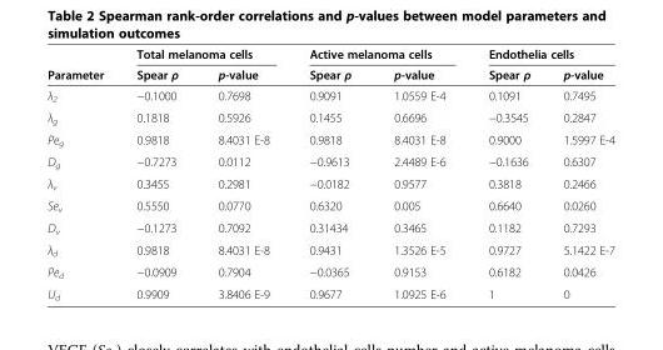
<table><thead><tr><td rowspan="2">Parameter</td><td colspan="2">Total melanoma cells</td><td colspan="2">Active melanoma cells</td><td colspan="2">Endothelia cells</td></tr><tr><td>Spear ρ</td><td>p-value</td><td>Spear ρ</td><td>p-value</td><td>Spear ρ</td><td>p-value</td></tr></thead><tbody><tr><td>λ<sub>2</sub></td><td>−0.1000</td><td>0.7698</td><td>0.9091</td><td>1.0559 E-4</td><td>0.1091</td><td>0.7495</td></tr><tr><td>λ<sub>g</sub></td><td>0.1818</td><td>0.5926</td><td>0.1455</td><td>0.6696</td><td>−0.3545</td><td>0.2847</td></tr><tr><td>Pe<sub>g</sub></td><td>0.9818</td><td>8.4031 E-8</td><td>0.9818</td><td>8.4031 E-8</td><td>0.9000</td><td>1.5997 E-4</td></tr><tr><td>D<sub>g</sub></td><td>−0.7273</td><td>0.0112</td><td>−0.9613</td><td>2.4489 E-6</td><td>−0.1636</td><td>0.6307</td></tr><tr><td>λ<sub>v</sub></td><td>0.3455</td><td>0.2981</td><td>−0.0182</td><td>0.9577</td><td>0.3818</td><td>0.2466</td></tr><tr><td>Se<sub>v</sub></td><td>0.5550</td><td>0.0770</td><td>0.6320</td><td>0.005</td><td>0.6640</td><td>0.0260</td></tr><tr><td>D<sub>v</sub></td><td>−0.1273</td><td>0.7092</td><td>0.31434</td><td>0.3465</td><td>0.1182</td><td>0.7293</td></tr><tr><td>λ<sub>d</sub></td><td>0.9818</td><td>8.4031 E-8</td><td>0.9431</td><td>1.3526 E-5</td><td>0.9727</td><td>5.1422 E-7</td></tr><tr><td>Pe<sub>d</sub></td><td>−0.0909</td><td>0.7904</td><td>−0.0365</td><td>0.9153</td><td>0.6182</td><td>0.0426</td></tr><tr><td>U<sub>d</sub></td><td>0.9909</td><td>3.8406 E-9</td><td>0.9677</td><td>1.0925 E-6</td><td>1</td><td>0</td></tr></tbody></table>